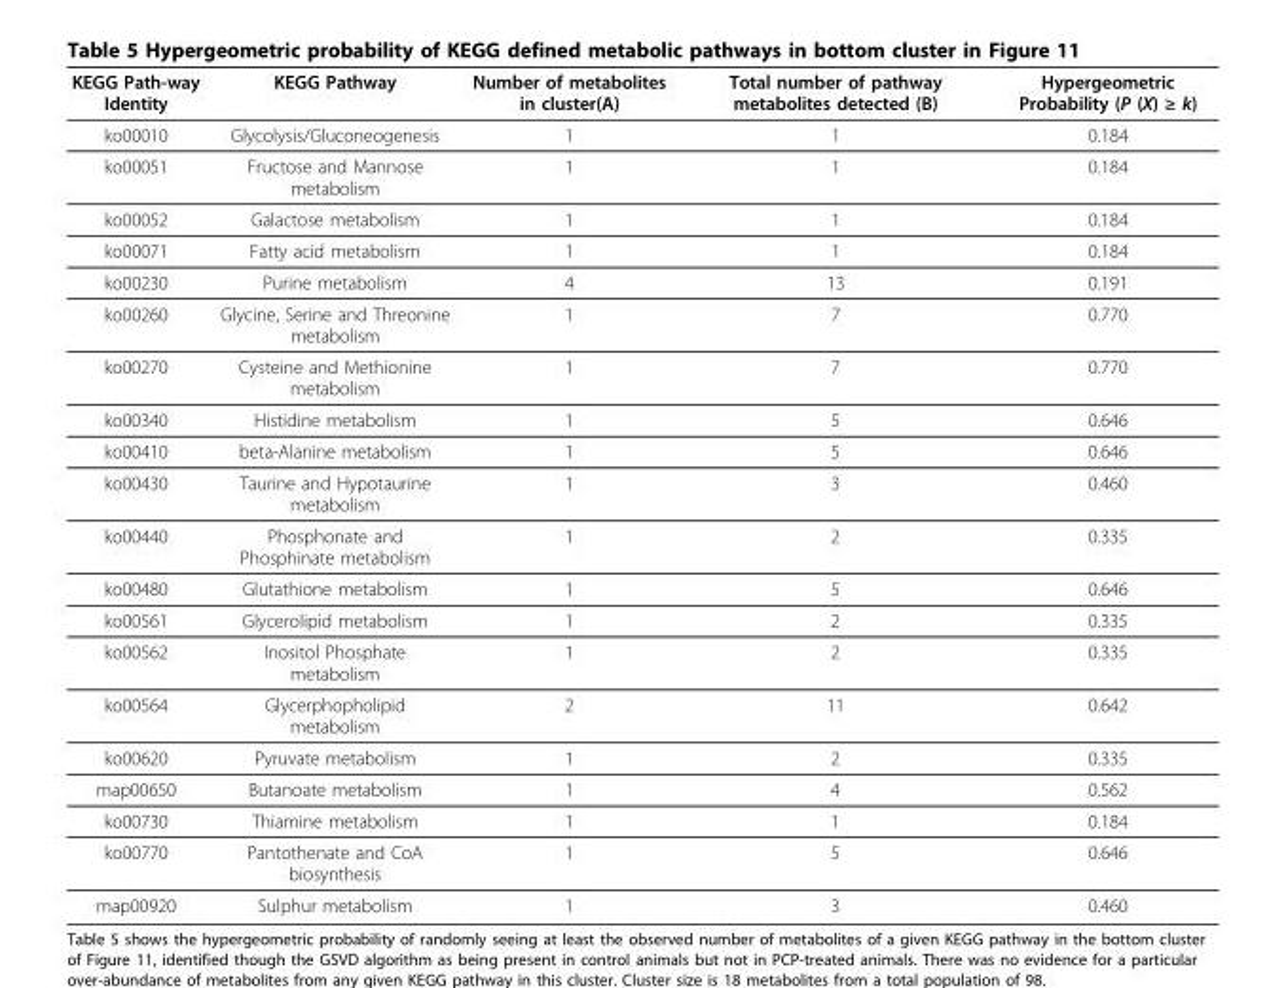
<table><thead><tr><td>KEGG Path-way Identity</td><td>KEGG Pathway</td><td>Number of metabolites in cluster(A)</td><td>Total number of pathway metabolites detected (B)</td><td>Hypergeometric Probability (P (X) ≥ k)</td></tr></thead><tbody><tr><td>ko00010</td><td>Glycolysis/Gluconeogenesis</td><td>1</td><td>1</td><td>0.184</td></tr><tr><td>ko00051</td><td>Fructose and Mannose metabolism</td><td>1</td><td>1</td><td>0.184</td></tr><tr><td>ko00052</td><td>Galactose metabolism</td><td>1</td><td>1</td><td>0.184</td></tr><tr><td>ko00071</td><td>Fatty acid metabolism</td><td>1</td><td>1</td><td>0.184</td></tr><tr><td>ko00230</td><td>Purine metabolism</td><td>4</td><td>13</td><td>0.191</td></tr><tr><td>ko00260</td><td>Glycine, Serine and Threonine metabolism</td><td>1</td><td>7</td><td>0.770</td></tr><tr><td>ko00270</td><td>Cysteine and Methionine metabolism</td><td>1</td><td>7</td><td>0.770</td></tr><tr><td>ko00340</td><td>Histidine metabolism</td><td>1</td><td>5</td><td>0.646</td></tr><tr><td>ko00410</td><td>beta-Alanine metabolism</td><td>1</td><td>5</td><td>0.646</td></tr><tr><td>ko00430</td><td>Taurine and Hypotaurine metabolism</td><td>1</td><td>3</td><td>0.460</td></tr><tr><td>ko00440</td><td>Phosphonate and Phosphinate metabolism</td><td>1</td><td>2</td><td>0.335</td></tr><tr><td>ko00480</td><td>Glutathione metabolism</td><td>1</td><td>5</td><td>0.646</td></tr><tr><td>ko00561</td><td>Glycerolipid metabolism</td><td>1</td><td>2</td><td>0.335</td></tr><tr><td>ko00562</td><td>Inositol Phosphate metabolism</td><td>1</td><td>2</td><td>0.335</td></tr><tr><td>ko00564</td><td>Glycerphopholipid metabolism</td><td>2</td><td>11</td><td>0.642</td></tr><tr><td>ko00620</td><td>Pyruvate metabolism</td><td>1</td><td>2</td><td>0.335</td></tr><tr><td>map00650</td><td>Butanoate metabolism</td><td>1</td><td>4</td><td>0.562</td></tr><tr><td>ko00730</td><td>Thiamine metabolism</td><td>1</td><td>1</td><td>0.184</td></tr><tr><td>ko00770</td><td>Pantothenate and CoA biosynthesis</td><td>1</td><td>5</td><td>0.646</td></tr><tr><td>map00920</td><td>Sulphur metabolism</td><td>1</td><td>3</td><td>0.460</td></tr></tbody></table>